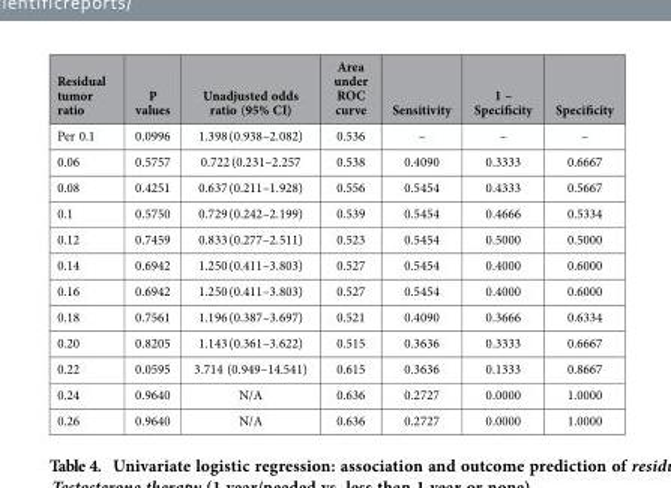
<table><thead><tr><td>Residual tumor ratio</td><td>P values</td><td>Unadjusted odds ratio (95% CI)</td><td>Area under ROC curve</td><td>Sensitivity</td><td>1 – Specificity</td><td>Specificity</td></tr></thead><tbody><tr><td>Per 0.1</td><td>0.0996</td><td>1.398 (0.938–2.082)</td><td>0.536</td><td>–</td><td>–</td><td>–</td></tr><tr><td>0.06</td><td>0.5757</td><td>0.722 (0.231–2.257</td><td>0.538</td><td>0.4090</td><td>0.3333</td><td>0.6667</td></tr><tr><td>0.08</td><td>0.4251</td><td>0.637 (0.211–1.928)</td><td>0.556</td><td>0.5454</td><td>0.4333</td><td>0.5667</td></tr><tr><td>0.1</td><td>0.5750</td><td>0.729 (0.242–2.199)</td><td>0.539</td><td>0.5454</td><td>0.4666</td><td>0.5334</td></tr><tr><td>0.12</td><td>0.7459</td><td>0.833 (0.277–2.511)</td><td>0.523</td><td>0.5454</td><td>0.5000</td><td>0.5000</td></tr><tr><td>0.14</td><td>0.6942</td><td>1.250 (0.411–3.803)</td><td>0.527</td><td>0.5454</td><td>0.4000</td><td>0.6000</td></tr><tr><td>0.16</td><td>0.6942</td><td>1.250 (0.411–3.803)</td><td>0.527</td><td>0.5454</td><td>0.4000</td><td>0.6000</td></tr><tr><td>0.18</td><td>0.7561</td><td>1.196 (0.387–3.697)</td><td>0.521</td><td>0.4090</td><td>0.3666</td><td>0.6334</td></tr><tr><td>0.20</td><td>0.8205</td><td>1.143 (0.361–3.622)</td><td>0.515</td><td>0.3636</td><td>0.3333</td><td>0.6667</td></tr><tr><td>0.22</td><td>0.0595</td><td>3.714 (0.949–14.541)</td><td>0.615</td><td>0.3636</td><td>0.1333</td><td>0.8667</td></tr><tr><td>0.24</td><td>0.9640</td><td>N/A</td><td>0.636</td><td>0.2727</td><td>0.0000</td><td>1.0000</td></tr><tr><td>0.26</td><td>0.9640</td><td>N/A</td><td>0.636</td><td>0.2727</td><td>0.0000</td><td>1.0000</td></tr></tbody></table>